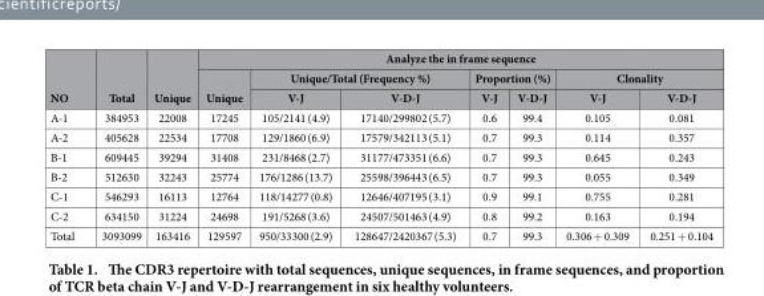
<table><thead><tr><td rowspan="3">NO</td><td rowspan="3">Total</td><td rowspan="3">Unique</td><td colspan="7">Analyze the in frame sequence</td></tr><tr><td rowspan="2">Unique</td><td colspan="2">Unique/Total (Frequency %)</td><td colspan="2">Proportion (%)</td><td colspan="2">Clonality</td></tr><tr><td>V-J</td><td>V-D-J</td><td>V-J</td><td>V-D-J</td><td>V-J</td><td>V-D-J</td></tr></thead><tbody><tr><td>A-1</td><td>384953</td><td>22008</td><td>17245</td><td>105/2141 (4.9)</td><td>17140/299802 (5.7)</td><td>0.6</td><td>99.4</td><td>0.105</td><td>0.081</td></tr><tr><td>A-2</td><td>405628</td><td>22534</td><td>17708</td><td>129/1860 (6.9)</td><td>17579/342113 (5.1)</td><td>0.7</td><td>99.3</td><td>0.114</td><td>0.357</td></tr><tr><td>B-1</td><td>609445</td><td>39294</td><td>31408</td><td>231/8468 (2.7)</td><td>31177/473351 (6.6)</td><td>0.7</td><td>99.3</td><td>0.645</td><td>0.243</td></tr><tr><td>B-2</td><td>512630</td><td>32243</td><td>25774</td><td>176/1286 (13.7)</td><td>25598/396443 (6.5)</td><td>0.7</td><td>99.3</td><td>0.055</td><td>0.349</td></tr><tr><td>C-1</td><td>546293</td><td>16113</td><td>12764</td><td>118/14277 (0.8)</td><td>12646/407195 (3.1)</td><td>0.9</td><td>99.1</td><td>0.755</td><td>0.281</td></tr><tr><td>C-2</td><td>634150</td><td>31224</td><td>24698</td><td>191/5268 (3.6)</td><td>24507/501463 (4.9)</td><td>0.8</td><td>99.2</td><td>0.163</td><td>0.194</td></tr><tr><td>Total</td><td>3093099</td><td>163416</td><td>129597</td><td>950/33300 (2.9)</td><td>128647/2420367 (5.3)</td><td>0.7</td><td>99.3</td><td>0.306 + 0.309</td><td>0.251 + 0.104</td></tr></tbody></table>